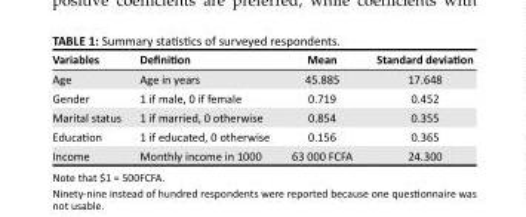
<table><thead><tr><td>Variables</td><td>Definition</td><td>Mean</td><td>Standard deviation</td></tr></thead><tbody><tr><td>Age</td><td>Age in years</td><td>45.885</td><td>17.648</td></tr><tr><td>Gender</td><td>1 if male, 0 if female</td><td>0.719</td><td>0.452</td></tr><tr><td>Marital status</td><td>1 if married, 0 otherwise</td><td>0.854</td><td>0.355</td></tr><tr><td>Education</td><td>1 if educated, 0 otherwise</td><td>0.156</td><td>0.365</td></tr><tr><td>Income</td><td>Monthly income in 1000</td><td>63 000 FCFA</td><td>24.300</td></tr></tbody></table>